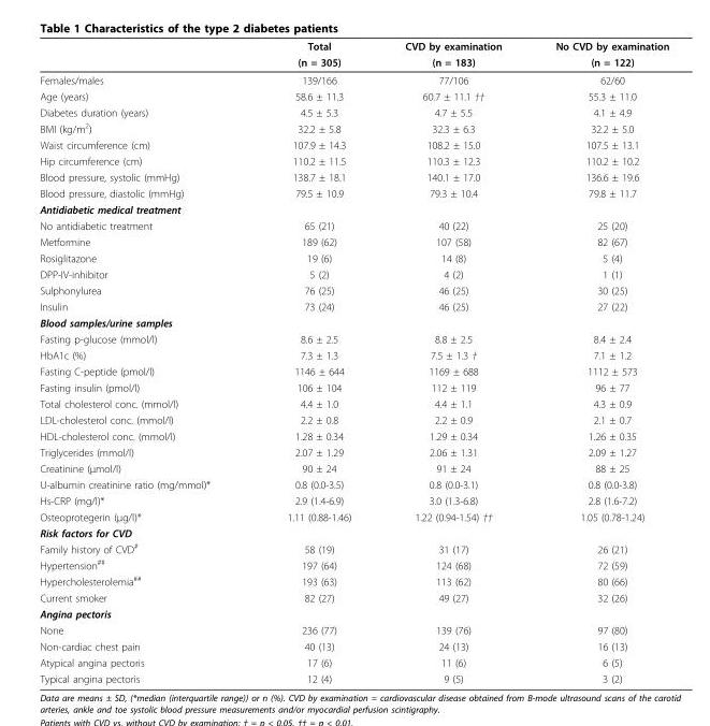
<table><thead><tr><td rowspan="2"></td><td rowspan="2">Total (n = 305)</td><td rowspan="2">CVD by examination (n = 183)</td><td rowspan="2">No CVD by examination (n = 122)</td></tr><tr></tr></thead><tbody><tr><td>Females/males</td><td>139/166</td><td>77/106</td><td>62/60</td></tr><tr><td>Age (years)</td><td>58.6 ± 11.3</td><td>60.7 ± 11.1 ††</td><td>55.3 ± 11.0</td></tr><tr><td>Diabetes duration (years)</td><td>4.5 ± 5.3</td><td>4.7 ± 5.5</td><td>4.1 ± 4.9</td></tr><tr><td>BMI (kg/m<sup>2</sup>)</td><td>32.2 ± 5.8</td><td>32.3 ± 6.3</td><td>32.2 ± 5.0</td></tr><tr><td>Waist circumference (cm)</td><td>107.9 ± 14.3</td><td>108.2 ± 15.0</td><td>107.5 ± 13.1</td></tr><tr><td>Hip circumference (cm)</td><td>110.2 ± 11.5</td><td>110.3 ± 12.3</td><td>110.2 ± 10.2</td></tr><tr><td>Blood pressure, systolic (mmHg)</td><td>138.7 ± 18.1</td><td>140.1 ± 17.0</td><td>136.6 ± 19.6</td></tr><tr><td>Blood pressure, diastolic (mmHg)</td><td>79.5 ± 10.9</td><td>79.3 ± 10.4</td><td>79.8 ± 11.7</td></tr><tr><td colspan="4">Antidiabetic medical treatment</td></tr><tr><td>No antidiabetic treatment</td><td>65 (21)</td><td>40 (22)</td><td>25 (20)</td></tr><tr><td>Metformine</td><td>189 (62)</td><td>107 (58)</td><td>82 (67)</td></tr><tr><td>Rosiglitazone</td><td>19 (6)</td><td>14 (8)</td><td>5 (4)</td></tr><tr><td>DPP-IV-inhibitor</td><td>5 (2)</td><td>4 (2)</td><td>1 (1)</td></tr><tr><td>Sulphonylurea</td><td>76 (25)</td><td>46 (25)</td><td>30 (25)</td></tr><tr><td>Insulin</td><td>73 (24)</td><td>46 (25)</td><td>27 (22)</td></tr><tr><td colspan="4">Blood samples/urine samples</td></tr><tr><td>Fasting p-glucose (mmol/l)</td><td>8.6 ± 2.5</td><td>8.8 ± 2.5</td><td>8.4 ± 2.4</td></tr><tr><td>HbA1c (%)</td><td>7.3 ± 1.3</td><td>7.5 ± 1.3 †</td><td>7.1 ± 1.2</td></tr><tr><td>Fasting C-peptide (pmol/l)</td><td>1146 ± 644</td><td>1169 ± 688</td><td>1112 ± 573</td></tr><tr><td>Fasting insulin (pmol/l)</td><td>106 ± 104</td><td>112 ± 119</td><td>96 ± 77</td></tr><tr><td>Total cholesterol conc. (mmol/l)</td><td>4.4 ± 1.0</td><td>4.4 ± 1.1</td><td>4.3 ± 0.9</td></tr><tr><td>LDL-cholesterol conc. (mmol/l)</td><td>2.2 ± 0.8</td><td>2.2 ± 0.9</td><td>2.1 ± 0.7</td></tr><tr><td>HDL-cholesterol conc. (mmol/l)</td><td>1.28 ± 0.34</td><td>1.29 ± 0.34</td><td>1.26 ± 0.35</td></tr><tr><td>Triglycerides (mmol/l)</td><td>2.07 ± 1.29</td><td>2.06 ± 1.31</td><td>2.09 ± 1.27</td></tr><tr><td>Creatinine (μmol/l)</td><td>90 ± 24</td><td>91 ± 24</td><td>88 ± 25</td></tr><tr><td>U-albumin creatinine ratio (mg/mmol)*</td><td>0.8 (0.0-3.5)</td><td>0.8 (0.0-3.1)</td><td>0.8 (0.0-3.8)</td></tr><tr><td>Hs-CRP (mg/l)*</td><td>2.9 (1.4-6.9)</td><td>3.0 (1.3-6.8)</td><td>2.8 (1.6-7.2)</td></tr><tr><td>Osteoprotegerin (μg/l)*</td><td>1.11 (0.88-1.46)</td><td>1.22 (0.94-1.54) ††</td><td>1.05 (0.78-1.24)</td></tr><tr><td colspan="4">Risk factors for CVD</td></tr><tr><td>Family history of CVD<sup>#</sup></td><td>58 (19)</td><td>31 (17)</td><td>26 (21)</td></tr><tr><td>Hypertension<sup>##</sup></td><td>197 (64)</td><td>124 (68)</td><td>72 (59)</td></tr><tr><td>Hypercholesterolemia<sup>##</sup></td><td>193 (63)</td><td>113 (62)</td><td>80 (66)</td></tr><tr><td>Current smoker</td><td>82 (27)</td><td>49 (27)</td><td>32 (26)</td></tr><tr><td colspan="4">Angina pectoris</td></tr><tr><td>None</td><td>236 (77)</td><td>139 (76)</td><td>97 (80)</td></tr><tr><td>Non-cardiac chest pain</td><td>40 (13)</td><td>24 (13)</td><td>16 (13)</td></tr><tr><td>Atypical angina pectoris</td><td>17 (6)</td><td>11 (6)</td><td>6 (5)</td></tr><tr><td>Typical angina pectoris</td><td>12 (4)</td><td>9 (5)</td><td>3 (2)</td></tr></tbody></table>